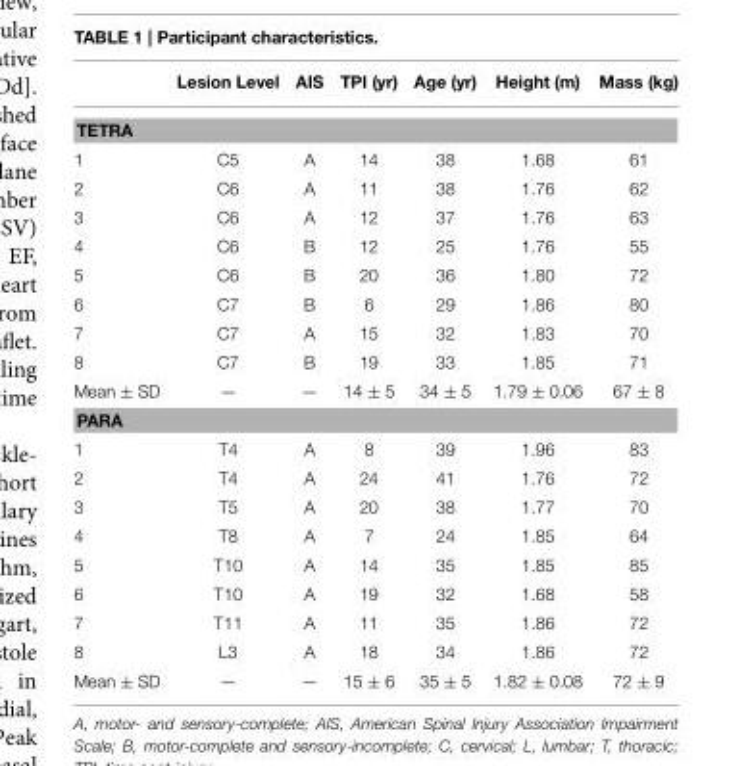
<table><thead><tr><td></td><td>Lesion Level</td><td>AIS</td><td>TPI (yr)</td><td>Age (yr)</td><td>Height (m)</td><td>Mass (kg)</td></tr></thead><tbody><tr><td colspan="7">TETRA</td></tr><tr><td>1</td><td>C5</td><td>A</td><td>14</td><td>38</td><td>1.68</td><td>61</td></tr><tr><td>2</td><td>C6</td><td>A</td><td>11</td><td>38</td><td>1.76</td><td>62</td></tr><tr><td>3</td><td>C6</td><td>A</td><td>12</td><td>37</td><td>1.76</td><td>63</td></tr><tr><td>4</td><td>C6</td><td>B</td><td>12</td><td>25</td><td>1.76</td><td>55</td></tr><tr><td>5</td><td>C6</td><td>B</td><td>20</td><td>36</td><td>1.80</td><td>72</td></tr><tr><td>6</td><td>C7</td><td>B</td><td>6</td><td>29</td><td>1.86</td><td>80</td></tr><tr><td>7</td><td>C7</td><td>A</td><td>15</td><td>32</td><td>1.83</td><td>70</td></tr><tr><td>8</td><td>C7</td><td>B</td><td>19</td><td>33</td><td>1.85</td><td>71</td></tr><tr><td>Mean ± SD</td><td>—</td><td>—</td><td>14 ± 5</td><td>34 ± 5</td><td>1.79 ± 0.06</td><td>67 ± 8</td></tr><tr><td colspan="7">PARA</td></tr><tr><td>1</td><td>T4</td><td>A</td><td>8</td><td>39</td><td>1.96</td><td>83</td></tr><tr><td>2</td><td>T4</td><td>A</td><td>24</td><td>41</td><td>1.76</td><td>72</td></tr><tr><td>3</td><td>T5</td><td>A</td><td>20</td><td>38</td><td>1.77</td><td>70</td></tr><tr><td>4</td><td>T8</td><td>A</td><td>7</td><td>24</td><td>1.85</td><td>64</td></tr><tr><td>5</td><td>T10</td><td>A</td><td>14</td><td>35</td><td>1.85</td><td>85</td></tr><tr><td>6</td><td>T10</td><td>A</td><td>19</td><td>32</td><td>1.68</td><td>58</td></tr><tr><td>7</td><td>T11</td><td>A</td><td>11</td><td>35</td><td>1.86</td><td>72</td></tr><tr><td>8</td><td>L3</td><td>A</td><td>18</td><td>34</td><td>1.86</td><td>72</td></tr><tr><td>Mean ± SD</td><td>—</td><td>—</td><td>15 ± 6</td><td>35 ± 5</td><td>1.82 ± 0.08</td><td>72 ± 9</td></tr></tbody></table>